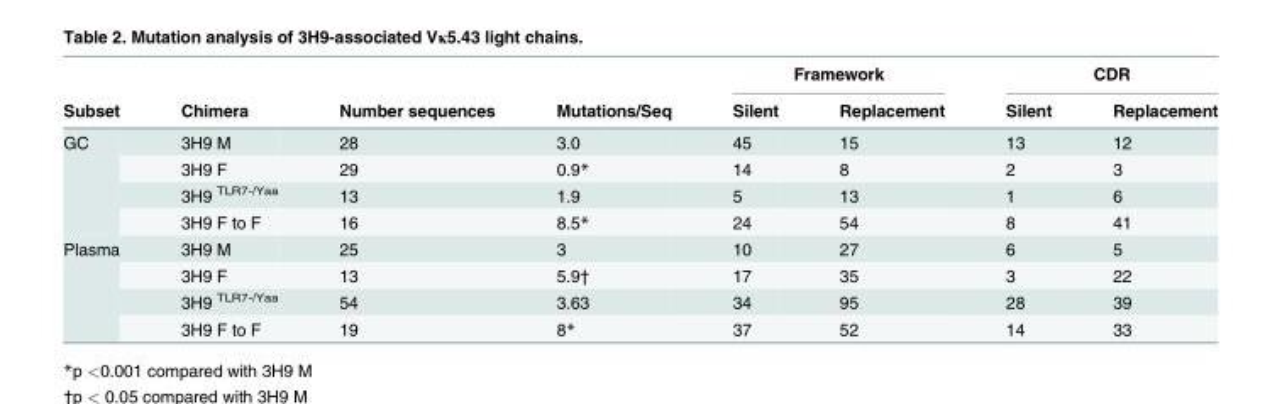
<table><thead><tr><td rowspan="2">Subset</td><td rowspan="2">Chimera</td><td rowspan="2">Number sequences</td><td rowspan="2">Mutations/Seq</td><td colspan="2">Framework</td><td colspan="2">CDR</td></tr><tr><td>Silent</td><td>Replacement</td><td>Silent</td><td>Replacement</td></tr></thead><tbody><tr><td rowspan="4">GC</td><td>3H9 M</td><td>28</td><td>3.0</td><td>45</td><td>15</td><td>13</td><td>12</td></tr><tr><td>3H9 F</td><td>29</td><td>0.9*</td><td>14</td><td>8</td><td>2</td><td>3</td></tr><tr><td>3H9 <sup>TLR7-/Yaa</sup></td><td>13</td><td>1.9</td><td>5</td><td>13</td><td>1</td><td>6</td></tr><tr><td>3H9 F to F</td><td>16</td><td>8.5*</td><td>24</td><td>54</td><td>8</td><td>41</td></tr><tr><td rowspan="4">Plasma</td><td>3H9 M</td><td>25</td><td>3</td><td>10</td><td>27</td><td>6</td><td>5</td></tr><tr><td>3H9 F</td><td>13</td><td>5.9†</td><td>17</td><td>35</td><td>3</td><td>22</td></tr><tr><td>3H9 <sup>TLR7-/Yaa</sup></td><td>54</td><td>3.63</td><td>34</td><td>95</td><td>28</td><td>39</td></tr><tr><td>3H9 F to F</td><td>19</td><td>8*</td><td>37</td><td>52</td><td>14</td><td>33</td></tr></tbody></table>